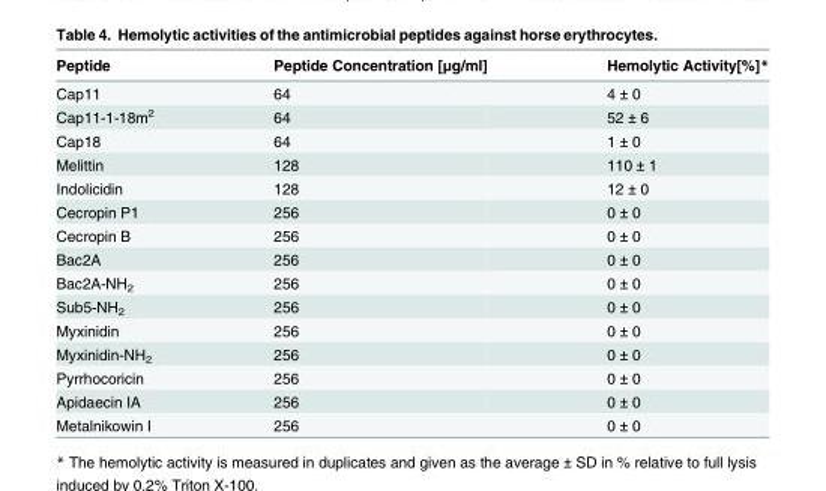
<table><thead><tr><td>Peptide</td><td>Peptide Concentration [μg/ml]</td><td>Hemolytic Activity[%]*</td></tr></thead><tbody><tr><td>Cap11</td><td>64</td><td>4 ± 0</td></tr><tr><td>Cap11-1-18m<sup>2</sup></td><td>64</td><td>52 ± 6</td></tr><tr><td>Cap18</td><td>64</td><td>1 ± 0</td></tr><tr><td>Melittin</td><td>128</td><td>110 ± 1</td></tr><tr><td>Indolicidin</td><td>128</td><td>12 ± 0</td></tr><tr><td>Cecropin P1</td><td>256</td><td>0 ± 0</td></tr><tr><td>Cecropin B</td><td>256</td><td>0 ± 0</td></tr><tr><td>Bac2A</td><td>256</td><td>0 ± 0</td></tr><tr><td>Bac2A-NH<sub>2</sub></td><td>256</td><td>0 ± 0</td></tr><tr><td>Sub5-NH<sub>2</sub></td><td>256</td><td>0 ± 0</td></tr><tr><td>Myxinidin</td><td>256</td><td>0 ± 0</td></tr><tr><td>Myxinidin-NH<sub>2</sub></td><td>256</td><td>0 ± 0</td></tr><tr><td>Pyrrhocoricin</td><td>256</td><td>0 ± 0</td></tr><tr><td>Apidaecin IA</td><td>256</td><td>0 ± 0</td></tr><tr><td>Metalnikowin I</td><td>256</td><td>0 ± 0</td></tr></tbody></table>